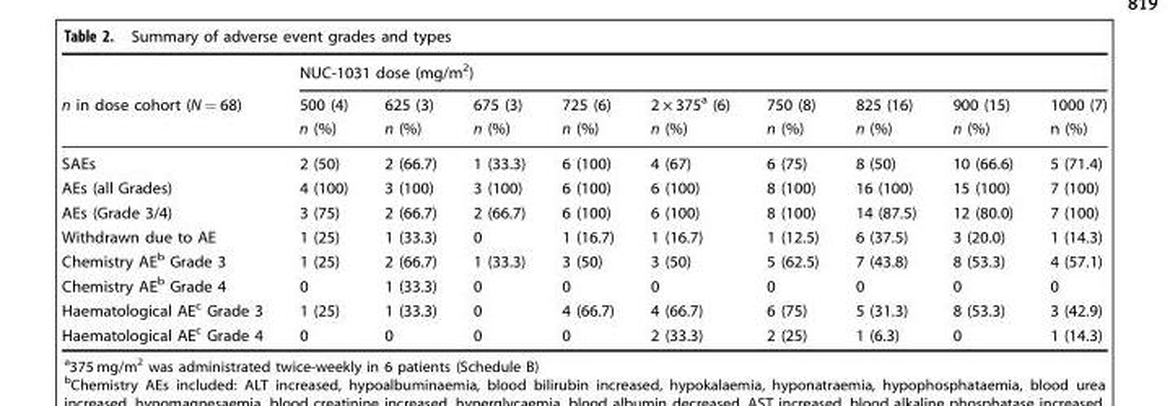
<table><thead><tr><td rowspan="3">n in dose cohort (N = 68)</td><td colspan="9">NUC-1031 dose (mg/m<sup>2</sup>)</td></tr><tr><td rowspan="2">500 (4) n (%)</td><td rowspan="2">625 (3) n (%)</td><td rowspan="2">675 (3) n (%)</td><td rowspan="2">725 (6) n (%)</td><td rowspan="2">2 × 375a (6) n (%)</td><td rowspan="2">750 (8) n (%)</td><td rowspan="2">825 (16) n (%)</td><td rowspan="2">900 (15) n (%)</td><td rowspan="2">1000 (7) n (%)</td></tr><tr></tr></thead><tbody><tr><td>SAEs</td><td>2 (50)</td><td>2 (66.7)</td><td>1 (33.3)</td><td>6 (100)</td><td>4 (67)</td><td>6 (75)</td><td>8 (50)</td><td>10 (66.6)</td><td>5 (71.4)</td></tr><tr><td>AEs (all Grades)</td><td>4 (100)</td><td>3 (100)</td><td>3 (100)</td><td>6 (100)</td><td>6 (100)</td><td>8 (100)</td><td>16 (100)</td><td>15 (100)</td><td>7 (100)</td></tr><tr><td>AEs (Grade 3/4)</td><td>3 (75)</td><td>2 (66.7)</td><td>2 (66.7)</td><td>6 (100)</td><td>6 (100)</td><td>8 (100)</td><td>14 (87.5)</td><td>12 (80.0)</td><td>7 (100)</td></tr><tr><td>Withdrawn due to AE</td><td>1 (25)</td><td>1 (33.3)</td><td>0</td><td>1 (16.7)</td><td>1 (16.7)</td><td>1 (12.5)</td><td>6 (37.5)</td><td>3 (20.0)</td><td>1 (14.3)</td></tr><tr><td>Chemistry AE<sup>b</sup> Grade 3</td><td>1 (25)</td><td>2 (66.7)</td><td>1 (33.3)</td><td>3 (50)</td><td>3 (50)</td><td>5 (62.5)</td><td>7 (43.8)</td><td>8 (53.3)</td><td>4 (57.1)</td></tr><tr><td>Chemistry AE<sup>b</sup> Grade 4</td><td>0</td><td>1 (33.3)</td><td>0</td><td>0</td><td>0</td><td>0</td><td>0</td><td>0</td><td>0</td></tr><tr><td>Haematological AE<sup>c</sup> Grade 3</td><td>1 (25)</td><td>1 (33.3)</td><td>0</td><td>4 (66.7)</td><td>4 (66.7)</td><td>6 (75)</td><td>5 (31.3)</td><td>8 (53.3)</td><td>3 (42.9)</td></tr><tr><td>Haematological AE<sup>c</sup> Grade 4</td><td>0</td><td>0</td><td>0</td><td>0</td><td>2 (33.3)</td><td>2 (25)</td><td>1 (6.3)</td><td>0</td><td>1 (14.3)</td></tr></tbody></table>